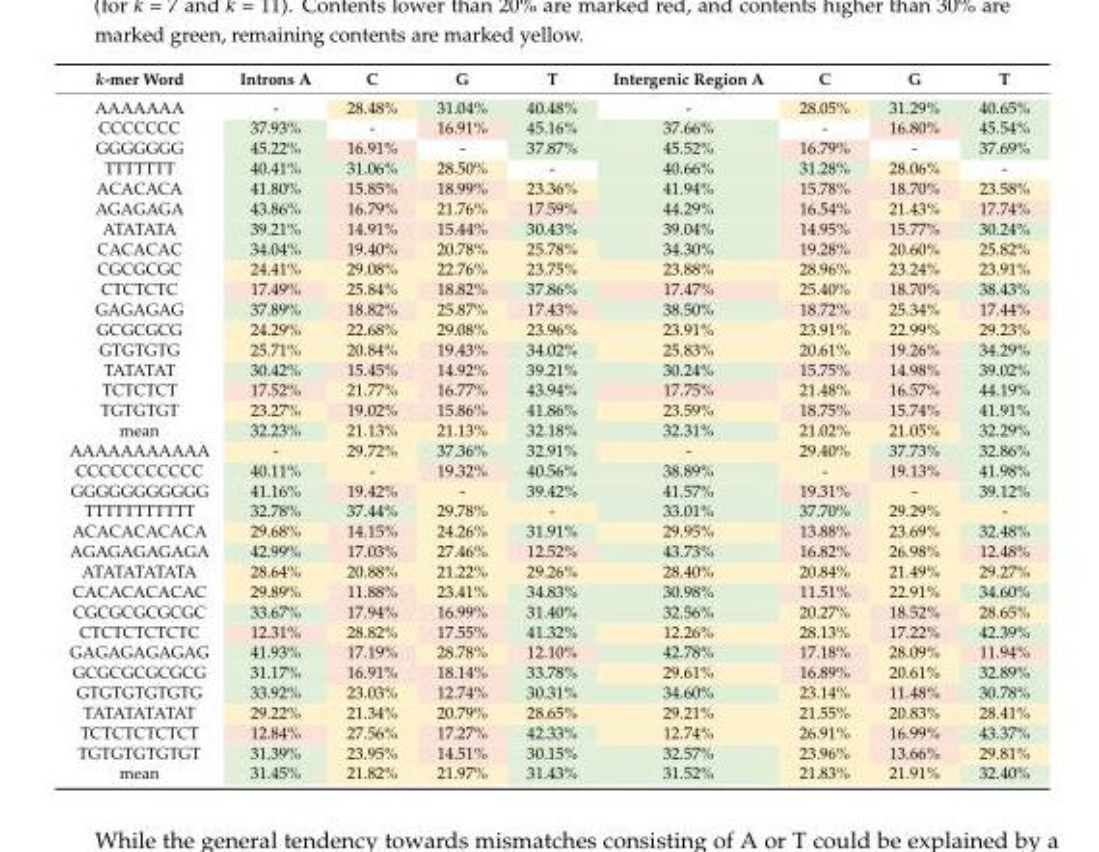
<table><thead><tr><td>k-mer Word</td><td>Introns A</td><td>C</td><td>G</td><td>T</td><td>Intergenic Region A</td><td>C</td><td>G</td><td>T</td></tr></thead><tbody><tr><td>AAAAAAA</td><td>-</td><td>28.48%</td><td>31.04%</td><td>40.48%</td><td>-</td><td>28.05%</td><td>31.29%</td><td>40.65%</td></tr><tr><td>CCCCCCC</td><td>37.93%</td><td>-</td><td>16.91%</td><td>45.16%</td><td>37.66%</td><td>-</td><td>16.80%</td><td>45.54%</td></tr><tr><td>GGGGGGG</td><td>45.22%</td><td>16.91%</td><td>-</td><td>37.87%</td><td>45.52%</td><td>16.79%</td><td>-</td><td>37.69%</td></tr><tr><td>TTTTTTT</td><td>40.41%</td><td>31.06%</td><td>28.50%</td><td>-</td><td>40.66%</td><td>31.28%</td><td>28.06%</td><td>-</td></tr><tr><td>ACACACA</td><td>41.80%</td><td>15.85%</td><td>18.99%</td><td>23.36%</td><td>41.94%</td><td>15.78%</td><td>18.70%</td><td>23.58%</td></tr><tr><td>AGAGAGA</td><td>43.86%</td><td>16.79%</td><td>21.76%</td><td>17.59%</td><td>44.29%</td><td>16.54%</td><td>21.43%</td><td>17.74%</td></tr><tr><td>ATATATA</td><td>39.21%</td><td>14.91%</td><td>15.44%</td><td>30.43%</td><td>39.04%</td><td>14.95%</td><td>15.77%</td><td>30.24%</td></tr><tr><td>CACACAC</td><td>34.04%</td><td>19.40%</td><td>20.78%</td><td>25.78%</td><td>34.30%</td><td>19.28%</td><td>20.60%</td><td>25.82%</td></tr><tr><td>CGCGCGC</td><td>24.41%</td><td>29.08%</td><td>22.76%</td><td>23.75%</td><td>23.88%</td><td>28.96%</td><td>23.24%</td><td>23.91%</td></tr><tr><td>CTCTCTC</td><td>17.49%</td><td>25.84%</td><td>18.82%</td><td>37.86%</td><td>17.47%</td><td>25.40%</td><td>18.70%</td><td>38.43%</td></tr><tr><td>GAGAGAG</td><td>37.89%</td><td>18.82%</td><td>25.87%</td><td>17.43%</td><td>38.50%</td><td>18.72%</td><td>25.34%</td><td>17.44%</td></tr><tr><td>GCGCGCG</td><td>24.29%</td><td>22.68%</td><td>29.08%</td><td>23.96%</td><td>23.91%</td><td>23.91%</td><td>22.99%</td><td>29.23%</td></tr><tr><td>GTGTGTG</td><td>25.71%</td><td>20.84%</td><td>19.43%</td><td>34.02%</td><td>25.83%</td><td>20.61%</td><td>19.26%</td><td>34.29%</td></tr><tr><td>TATATAT</td><td>30.42%</td><td>15.45%</td><td>14.92%</td><td>39.21%</td><td>30.24%</td><td>15.75%</td><td>14.98%</td><td>39.02%</td></tr><tr><td>TCTCTCT</td><td>17.52%</td><td>21.77%</td><td>16.77%</td><td>43.94%</td><td>17.75%</td><td>21.48%</td><td>16.57%</td><td>44.19%</td></tr><tr><td>TGTGTGT</td><td>23.27%</td><td>19.02%</td><td>15.86%</td><td>41.86%</td><td>23.59%</td><td>18.75%</td><td>15.74%</td><td>41.91%</td></tr><tr><td>mean</td><td>32.23%</td><td>21.13%</td><td>21.13%</td><td>32.18%</td><td>32.31%</td><td>21.02%</td><td>21.05%</td><td>32.29%</td></tr><tr><td>AAAAAAAAAAA</td><td>-</td><td>29.72%</td><td>37.36%</td><td>32.91%</td><td>-</td><td>29.40%</td><td>37.73%</td><td>32.86%</td></tr><tr><td>CCCCCCCCCCC</td><td>40.11%</td><td>-</td><td>19.32%</td><td>40.56%</td><td>38.89%</td><td>-</td><td>19.13%</td><td>41.98%</td></tr><tr><td>GGGGGGGGGGG</td><td>41.16%</td><td>19.42%</td><td>-</td><td>39.42%</td><td>41.57%</td><td>19.31%</td><td>-</td><td>39.12%</td></tr><tr><td>TTTTTTTTTTT</td><td>32.78%</td><td>37.44%</td><td>29.78%</td><td>-</td><td>33.01%</td><td>37.70%</td><td>29.29%</td><td>-</td></tr><tr><td>ACACACACACA</td><td>29.68%</td><td>14.15%</td><td>24.26%</td><td>31.91%</td><td>29.95%</td><td>13.88%</td><td>23.69%</td><td>32.48%</td></tr><tr><td>AGAGAGAGAGA</td><td>42.99%</td><td>17.03%</td><td>27.46%</td><td>12.52%</td><td>43.73%</td><td>16.82%</td><td>26.98%</td><td>12.48%</td></tr><tr><td>ATATATATATA</td><td>28.64%</td><td>20.88%</td><td>21.22%</td><td>29.26%</td><td>28.40%</td><td>20.84%</td><td>21.49%</td><td>29.27%</td></tr><tr><td>CACACACACAC</td><td>29.89%</td><td>11.88%</td><td>23.41%</td><td>34.83%</td><td>30.98%</td><td>11.51%</td><td>22.91%</td><td>34.60%</td></tr><tr><td>CGCGCGCGCGC</td><td>33.67%</td><td>17.94%</td><td>16.99%</td><td>31.40%</td><td>32.56%</td><td>20.27%</td><td>18.52%</td><td>28.65%</td></tr><tr><td>CTCTCTCTCTC</td><td>12.31%</td><td>28.82%</td><td>17.55%</td><td>41.32%</td><td>12.26%</td><td>28.13%</td><td>17.22%</td><td>42.39%</td></tr><tr><td>GAGAGAGAGAG</td><td>41.93%</td><td>17.19%</td><td>28.78%</td><td>12.10%</td><td>42.78%</td><td>17.18%</td><td>28.09%</td><td>11.94%</td></tr><tr><td>GCGCGCGCGCG</td><td>31.17%</td><td>16.91%</td><td>18.14%</td><td>33.78%</td><td>29.61%</td><td>16.89%</td><td>20.61%</td><td>32.89%</td></tr><tr><td>GTGTGTGTGTG</td><td>33.92%</td><td>23.03%</td><td>12.74%</td><td>30.31%</td><td>34.60%</td><td>23.14%</td><td>11.48%</td><td>30.78%</td></tr><tr><td>TATATATATAT</td><td>29.22%</td><td>21.34%</td><td>20.79%</td><td>28.65%</td><td>29.21%</td><td>21.55%</td><td>20.83%</td><td>28.41%</td></tr><tr><td>TCTCTCTCTCT</td><td>12.84%</td><td>27.56%</td><td>17.27%</td><td>42.33%</td><td>12.74%</td><td>26.91%</td><td>16.99%</td><td>43.37%</td></tr><tr><td>TGTGTGTGTGT</td><td>31.39%</td><td>23.95%</td><td>14.51%</td><td>30.15%</td><td>32.57%</td><td>23.96%</td><td>13.66%</td><td>29.81%</td></tr><tr><td>mean</td><td>31.45%</td><td>21.82%</td><td>21.97%</td><td>31.43%</td><td>31.52%</td><td>21.83%</td><td>21.91%</td><td>32.40%</td></tr></tbody></table>